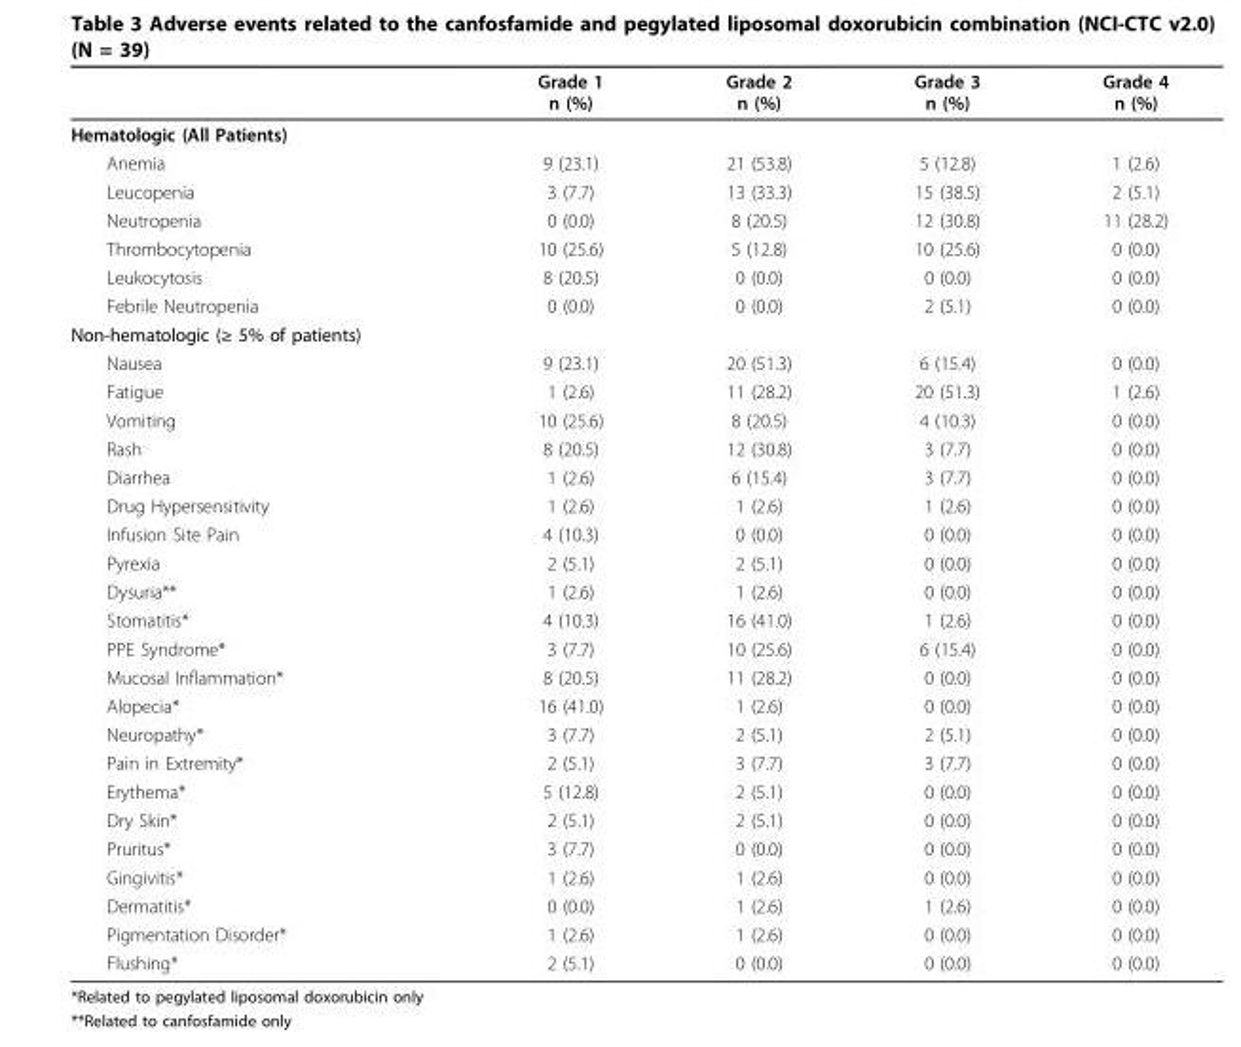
<table><thead><tr><td></td><td>Grade 1 n (%)</td><td>Grade 2 n (%)</td><td>Grade 3 n (%)</td><td>Grade 4 n (%)</td></tr></thead><tbody><tr><td colspan="5">Hematologic (All Patients)</td></tr><tr><td>Anemia</td><td>9 (23.1)</td><td>21 (53.8)</td><td>5 (12.8)</td><td>1 (2.6)</td></tr><tr><td>Leucopenia</td><td>3 (7.7)</td><td>13 (33.3)</td><td>15 (38.5)</td><td>2 (5.1)</td></tr><tr><td>Neutropenia</td><td>0 (0.0)</td><td>8 (20.5)</td><td>12 (30.8)</td><td>11 (28.2)</td></tr><tr><td>Thrombocytopenia</td><td>10 (25.6)</td><td>5 (12.8)</td><td>10 (25.6)</td><td>0 (0.0)</td></tr><tr><td>Leukocytosis</td><td>8 (20.5)</td><td>0 (0.0)</td><td>0 (0.0)</td><td>0 (0.0)</td></tr><tr><td>Febrile Neutropenia</td><td>0 (0.0)</td><td>0 (0.0)</td><td>2 (5.1)</td><td>0 (0.0)</td></tr><tr><td colspan="5">Non-hematologic (≥ 5% of patients)</td></tr><tr><td>Nausea</td><td>9 (23.1)</td><td>20 (51.3)</td><td>6 (15.4)</td><td>0 (0.0)</td></tr><tr><td>Fatigue</td><td>1 (2.6)</td><td>11 (28.2)</td><td>20 (51.3)</td><td>1 (2.6)</td></tr><tr><td>Vomiting</td><td>10 (25.6)</td><td>8 (20.5)</td><td>4 (10.3)</td><td>0 (0.0)</td></tr><tr><td>Rash</td><td>8 (20.5)</td><td>12 (30.8)</td><td>3 (7.7)</td><td>0 (0.0)</td></tr><tr><td>Diarrhea</td><td>1 (2.6)</td><td>6 (15.4)</td><td>3 (7.7)</td><td>0 (0.0)</td></tr><tr><td>Drug Hypersensitivity</td><td>1 (2.6)</td><td>1 (2.6)</td><td>1 (2.6)</td><td>0 (0.0)</td></tr><tr><td>Infusion Site Pain</td><td>4 (10.3)</td><td>0 (0.0)</td><td>0 (0.0)</td><td>0 (0.0)</td></tr><tr><td>Pyrexia</td><td>2 (5.1)</td><td>2 (5.1)</td><td>0 (0.0)</td><td>0 (0.0)</td></tr><tr><td>Dysuria**</td><td>1 (2.6)</td><td>1 (2.6)</td><td>0 (0.0)</td><td>0 (0.0)</td></tr><tr><td>Stomatitis*</td><td>4 (10.3)</td><td>16 (41.0)</td><td>1 (2.6)</td><td>0 (0.0)</td></tr><tr><td>PPE Syndrome*</td><td>3 (7.7)</td><td>10 (25.6)</td><td>6 (15.4)</td><td>0 (0.0)</td></tr><tr><td>Mucosal Inflammation*</td><td>8 (20.5)</td><td>11 (28.2)</td><td>0 (0.0)</td><td>0 (0.0)</td></tr><tr><td>Alopecia*</td><td>16 (41.0)</td><td>1 (2.6)</td><td>0 (0.0)</td><td>0 (0.0)</td></tr><tr><td>Neuropathy*</td><td>3 (7.7)</td><td>2 (5.1)</td><td>2 (5.1)</td><td>0 (0.0)</td></tr><tr><td>Pain in Extremity*</td><td>2 (5.1)</td><td>3 (7.7)</td><td>3 (7.7)</td><td>0 (0.0)</td></tr><tr><td>Erythema*</td><td>5 (12.8)</td><td>2 (5.1)</td><td>0 (0.0)</td><td>0 (0.0)</td></tr><tr><td>Dry Skin*</td><td>2 (5.1)</td><td>2 (5.1)</td><td>0 (0.0)</td><td>0 (0.0)</td></tr><tr><td>Pruritus*</td><td>3 (7.7)</td><td>0 (0.0)</td><td>0 (0.0)</td><td>0 (0.0)</td></tr><tr><td>Gingivitis*</td><td>1 (2.6)</td><td>1 (2.6)</td><td>0 (0.0)</td><td>0 (0.0)</td></tr><tr><td>Dermatitis*</td><td>0 (0.0)</td><td>1 (2.6)</td><td>1 (2.6)</td><td>0 (0.0)</td></tr><tr><td>Pigmentation Disorder*</td><td>1 (2.6)</td><td>1 (2.6)</td><td>0 (0.0)</td><td>0 (0.0)</td></tr><tr><td>Flushing*</td><td>2 (5.1)</td><td>0 (0.0)</td><td>0 (0.0)</td><td>0 (0.0)</td></tr></tbody></table>